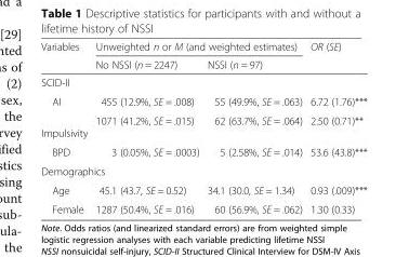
<table><thead><tr><td rowspan="2">Variables</td><td colspan="2">Unweighted n or M (and weighted estimates)</td><td rowspan="2">OR (SE)</td></tr><tr><td>No NSSI (n = 2247)</td><td>NSSI (n = 97)</td></tr></thead><tbody><tr><td colspan="4">SCID-II</td></tr><tr><td>AI</td><td>455 (12.9%, SE = .008)</td><td>55 (49.9%, SE = .063)</td><td>6.72 (1.76)***</td></tr><tr><td>Impulsivity</td><td>1071 (41.2%, SE = .015)</td><td>62 (63.7%, SE = .064)</td><td>2.50 (0.71)**</td></tr><tr><td>BPD</td><td>3 (0.05%, SE = .0003)</td><td>5 (2.58%, SE = .014)</td><td>53.6 (43.8)***</td></tr><tr><td colspan="4">Demographics</td></tr><tr><td>Age</td><td>45.1 (43.7, SE = 0.52)</td><td>34.1 (30.0, SE = 1.34)</td><td>0.93 (.009)***</td></tr><tr><td>Female</td><td>1287 (50.4%, SE = .016)</td><td>60 (56.9%, SE = .062)</td><td>1.30 (0.33)</td></tr></tbody></table>